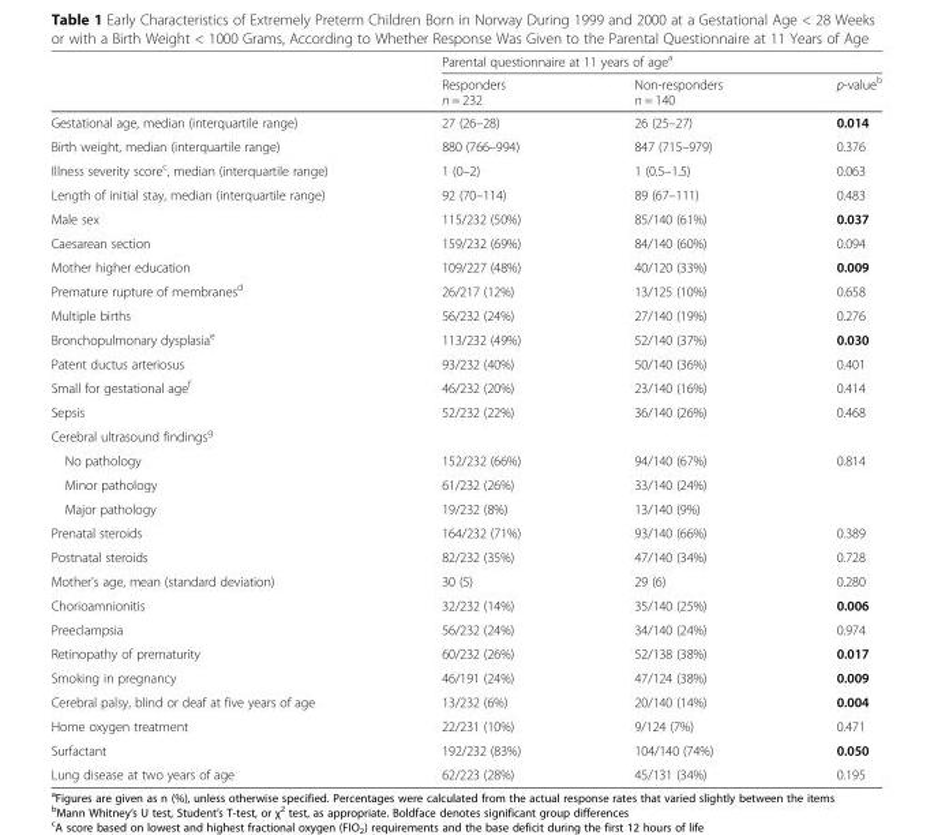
<table><thead><tr><td rowspan="2"></td><td colspan="3">Parental questionnaire at 11 years of age<sup>a</sup></td></tr><tr><td>Responders n = 232</td><td>Non-responders n = 140</td><td>p-value<sup>b</sup></td></tr></thead><tbody><tr><td>Gestational age, median (interquartile range)</td><td>27 (26–28)</td><td>26 (25–27)</td><td>0.014</td></tr><tr><td>Birth weight, median (interquartile range)</td><td>880 (766–994)</td><td>847 (715–979)</td><td>0.376</td></tr><tr><td>Illness severity score<sup>c</sup>, median (interquartile range)</td><td>1 (0–2)</td><td>1 (0.5–1.5)</td><td>0.063</td></tr><tr><td>Length of initial stay, median (interquartile range)</td><td>92 (70–114)</td><td>89 (67–111)</td><td>0.483</td></tr><tr><td>Male sex</td><td>115/232 (50%)</td><td>85/140 (61%)</td><td>0.037</td></tr><tr><td>Caesarean section</td><td>159/232 (69%)</td><td>84/140 (60%)</td><td>0.094</td></tr><tr><td>Mother higher education</td><td>109/227 (48%)</td><td>40/120 (33%)</td><td>0.009</td></tr><tr><td>Premature rupture of membranes<sup>d</sup></td><td>26/217 (12%)</td><td>13/125 (10%)</td><td>0.658</td></tr><tr><td>Multiple births</td><td>56/232 (24%)</td><td>27/140 (19%)</td><td>0.276</td></tr><tr><td>Bronchopulmonary dysplasia<sup>e</sup></td><td>113/232 (49%)</td><td>52/140 (37%)</td><td>0.030</td></tr><tr><td>Patent ductus arteriosus</td><td>93/232 (40%)</td><td>50/140 (36%)</td><td>0.401</td></tr><tr><td>Small for gestational age<sup>f</sup></td><td>46/232 (20%)</td><td>23/140 (16%)</td><td>0.414</td></tr><tr><td>Sepsis</td><td>52/232 (22%)</td><td>36/140 (26%)</td><td>0.468</td></tr><tr><td colspan="4">Cerebral ultrasound findings<sup>g</sup></td></tr><tr><td>No pathology</td><td>152/232 (66%)</td><td>94/140 (67%)</td><td>0.814</td></tr><tr><td>Minor pathology</td><td>61/232 (26%)</td><td>33/140 (24%)</td><td></td></tr><tr><td>Major pathology</td><td>19/232 (8%)</td><td>13/140 (9%)</td><td></td></tr><tr><td>Prenatal steroids</td><td>164/232 (71%)</td><td>93/140 (66%)</td><td>0.389</td></tr><tr><td>Postnatal steroids</td><td>82/232 (35%)</td><td>47/140 (34%)</td><td>0.728</td></tr><tr><td>Mother’s age, mean (standard deviation)</td><td>30 (5)</td><td>29 (6)</td><td>0.280</td></tr><tr><td>Chorioamnionitis</td><td>32/232 (14%)</td><td>35/140 (25%)</td><td>0.006</td></tr><tr><td>Preeclampsia</td><td>56/232 (24%)</td><td>34/140 (24%)</td><td>0.974</td></tr><tr><td>Retinopathy of prematurity</td><td>60/232 (26%)</td><td>52/138 (38%)</td><td>0.017</td></tr><tr><td>Smoking in pregnancy</td><td>46/191 (24%)</td><td>47/124 (38%)</td><td>0.009</td></tr><tr><td>Cerebral palsy, blind or deaf at five years of age</td><td>13/232 (6%)</td><td>20/140 (14%)</td><td>0.004</td></tr><tr><td>Home oxygen treatment</td><td>22/231 (10%)</td><td>9/124 (7%)</td><td>0.471</td></tr><tr><td>Surfactant</td><td>192/232 (83%)</td><td>104/140 (74%)</td><td>0.050</td></tr><tr><td>Lung disease at two years of age</td><td>62/223 (28%)</td><td>45/131 (34%)</td><td>0.195</td></tr></tbody></table>